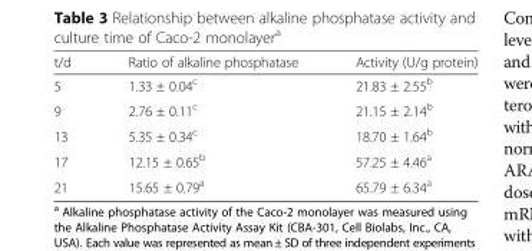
<table><thead><tr><td>t/d</td><td>Ratio of alkaline phosphatase</td><td>Activity (U/g protein)</td></tr></thead><tbody><tr><td>5</td><td>1.33 ± 0.04<sup>c</sup></td><td>21.83 ± 2.55<sup>b</sup></td></tr><tr><td>9</td><td>2.76 ± 0.11<sup>c</sup></td><td>21.15 ± 2.14<sup>b</sup></td></tr><tr><td>13</td><td>5.35 ± 0.34<sup>c</sup></td><td>18.70 ± 1.64<sup>b</sup></td></tr><tr><td>17</td><td>12.15 ± 0.65<sup>b</sup></td><td>57.25 ± 4.46<sup>a</sup></td></tr><tr><td>21</td><td>15.65 ± 0.79<sup>a</sup></td><td>65.79 ± 6.34<sup>a</sup></td></tr></tbody></table>